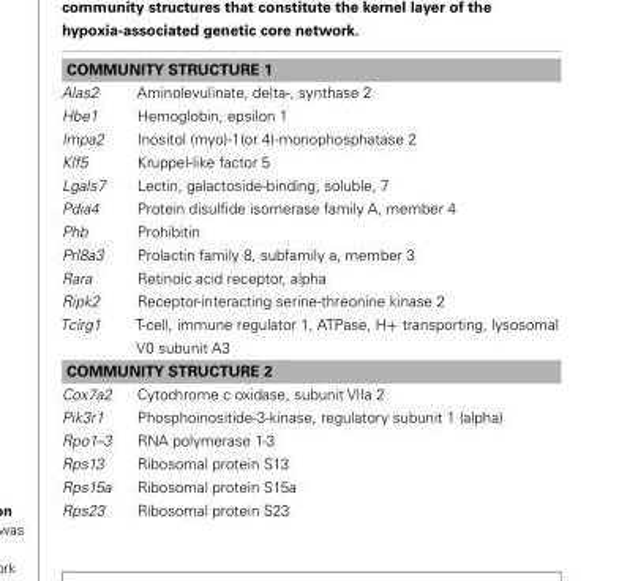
<table><tbody><tr><td colspan="2">COMMUNITY STRUCTURE 1</td></tr><tr><td>Alas2</td><td>Aminolevulinate, delta-, synthase 2</td></tr><tr><td>Hbe1</td><td>Hemoglobin, epsilon 1</td></tr><tr><td>Impa2</td><td>Inositol (myo)-1(or 4)-monophosphatase 2</td></tr><tr><td>Klf5</td><td>Kruppel-like factor 5</td></tr><tr><td>Lgals7</td><td>Lectin, galactoside-binding, soluble, 7</td></tr><tr><td>Pdia4</td><td>Protein disulfide isomerase family A, member 4</td></tr><tr><td>Phb</td><td>Prohibitin</td></tr><tr><td>Prl8a3</td><td>Prolactin family 8, subfamily a, member 3</td></tr><tr><td>Rara</td><td>Retinoic acid receptor, alpha</td></tr><tr><td>Ripk2</td><td>Receptor-interacting serine-threonine kinase 2</td></tr><tr><td>Tcirg1</td><td>T-cell, immune regulator 1, ATPase, H+ transporting, lysosomal V0 subunit A3</td></tr><tr><td colspan="2">COMMUNITY STRUCTURE 2</td></tr><tr><td>Cox7a2</td><td>Cytochrome c oxidase, subunit VIIa 2</td></tr><tr><td>Pik3r1</td><td>Phosphoinositide-3-kinase, regulatory subunit 1 (alpha)</td></tr><tr><td>Rpo1–3</td><td>RNA polymerase 1-3</td></tr><tr><td>Rps13</td><td>Ribosomal protein S13</td></tr><tr><td>Rps15a</td><td>Ribosomal protein S15a</td></tr><tr><td>Rps23</td><td>Ribosomal protein S23</td></tr></tbody></table>